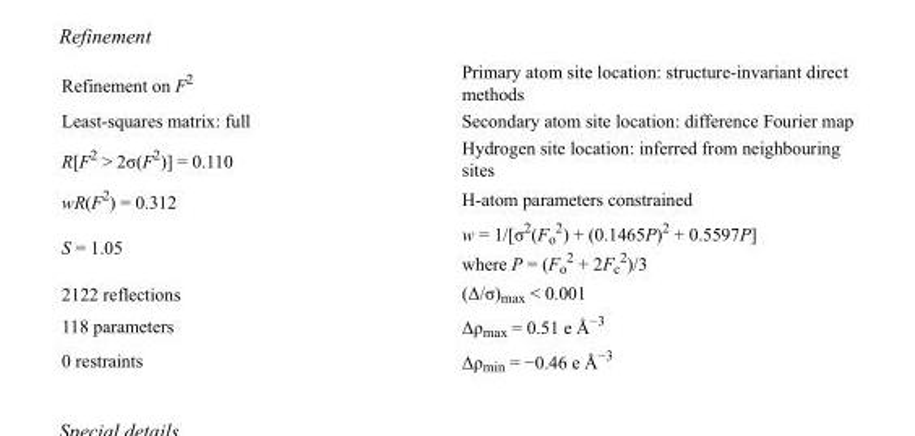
<table><tbody><tr><td>Refinement on F<sup>2</sup></td><td>Primary atom site location: structure-invariant direct methods</td></tr><tr><td>Least-squares matrix: full</td><td>Secondary atom site location: difference Fourier map</td></tr><tr><td>R[F<sup>2</sup> &gt; 2σ(F<sup>2</sup>)] = 0.110</td><td>Hydrogen site location: inferred from neighbouring sites</td></tr><tr><td>wR(F<sup>2</sup>) = 0.312</td><td>H-atom parameters constrained</td></tr><tr><td>S = 1.05</td><td>w = 1/[σ<sup>2</sup>(F<sub>o</sub> <sup>2</sup>) + (0.1465P)<sup>2</sup> + 0.5597P] where P = (F<sub>o</sub> <sup>2</sup> + 2F<sub>c</sub> <sup>2</sup>)/3</td></tr><tr><td>2122 reflections</td><td>(Δ/σ)<sub>max</sub> &lt; 0.001</td></tr><tr><td>118 parameters</td><td>Δρ<sub>max</sub> = 0.51 e Å<sup>−3</sup></td></tr><tr><td>0 restraints</td><td>Δρ<sub>min</sub> = −0.46 e Å<sup>−3</sup></td></tr></tbody></table>